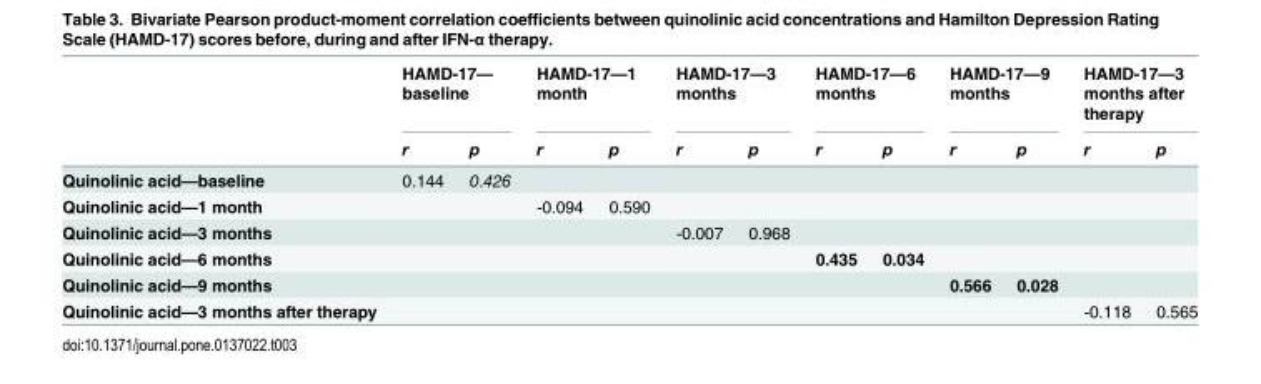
<table><thead><tr><td rowspan="2"></td><td colspan="2">HAMD-17— baseline</td><td colspan="2">HAMD-17—1 month</td><td colspan="2">HAMD-17—3 months</td><td colspan="2">HAMD-17—6 months</td><td colspan="2">HAMD-17—9 months</td><td colspan="2">HAMD-17—3 months after therapy</td></tr><tr><td>r</td><td>p</td><td>r</td><td>p</td><td>r</td><td>p</td><td>r</td><td>p</td><td>r</td><td>p</td><td>r</td><td>p</td></tr></thead><tbody><tr><td>Quinolinic acid—baseline</td><td>0.144</td><td>0.426</td><td colspan="10"></td></tr><tr><td>Quinolinic acid—1 month</td><td colspan="2"></td><td>-0.094</td><td>0.590</td><td colspan="8"></td></tr><tr><td>Quinolinic acid—3 months</td><td colspan="4"></td><td>-0.007</td><td>0.968</td><td colspan="6"></td></tr><tr><td>Quinolinic acid—6 months</td><td colspan="6"></td><td>0.435</td><td>0.034</td><td colspan="4"></td></tr><tr><td>Quinolinic acid—9 months</td><td colspan="8"></td><td>0.566</td><td>0.028</td><td colspan="2"></td></tr><tr><td>Quinolinic acid—3 months after therapy</td><td colspan="10"></td><td>-0.118</td><td>0.565</td></tr></tbody></table>